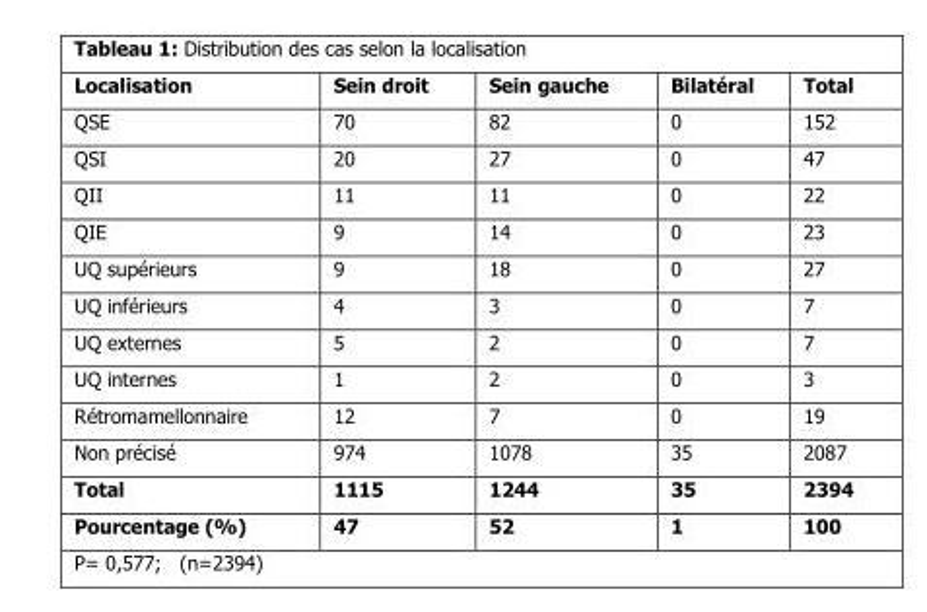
<table><thead><tr><td>Localisation</td><td>Sein droit</td><td>Sein gauche</td><td>Bilatéral</td><td>Total</td></tr></thead><tbody><tr><td>QSE</td><td>70</td><td>82</td><td>0</td><td>152</td></tr><tr><td>QSI</td><td>20</td><td>27</td><td>0</td><td>47</td></tr><tr><td>QII</td><td>11</td><td>11</td><td>0</td><td>22</td></tr><tr><td>QIE</td><td>9</td><td>14</td><td>0</td><td>23</td></tr><tr><td>UQ supérieurs</td><td>9</td><td>18</td><td>0</td><td>27</td></tr><tr><td>UQ inférieurs</td><td>4</td><td>3</td><td>0</td><td>7</td></tr><tr><td>UQ externes</td><td>5</td><td>2</td><td>0</td><td>7</td></tr><tr><td>UQ internes</td><td>1</td><td>2</td><td>0</td><td>3</td></tr><tr><td>Rétromamellonnaire</td><td>12</td><td>7</td><td>0</td><td>19</td></tr><tr><td>Non précisé</td><td>974</td><td>1078</td><td>35</td><td>2087</td></tr><tr><td>Total</td><td>1115</td><td>1244</td><td>35</td><td>2394</td></tr><tr><td>Pourcentage (%)</td><td>47</td><td>52</td><td>1</td><td>100</td></tr></tbody></table>